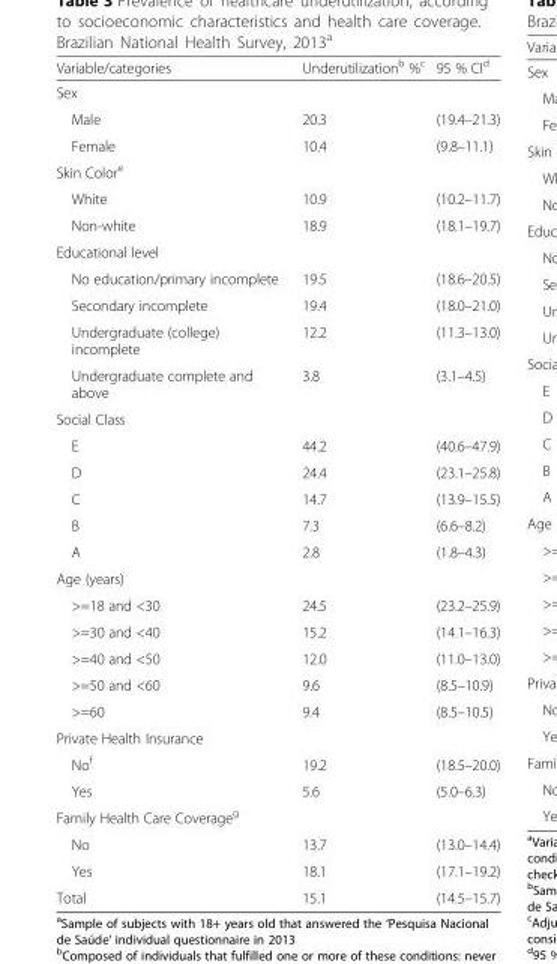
<table><thead><tr><td>Variable/categories</td><td>Underutilization<sup>b</sup> %<sup>c</sup></td><td>95 % CI<sup>d</sup></td></tr></thead><tbody><tr><td colspan="3">Sex</td></tr><tr><td>Male</td><td>20.3</td><td>(19.4–21.3)</td></tr><tr><td>Female</td><td>10.4</td><td>(9.8–11.1)</td></tr><tr><td colspan="3">Skin Color<sup>e</sup></td></tr><tr><td>White</td><td>10.9</td><td>(10.2–11.7)</td></tr><tr><td>Non-white</td><td>18.9</td><td>(18.1–19.7)</td></tr><tr><td colspan="3">Educational level</td></tr><tr><td>No education/primary incomplete</td><td>19.5</td><td>(18.6–20.5)</td></tr><tr><td>Secondary incomplete</td><td>19.4</td><td>(18.0–21.0)</td></tr><tr><td>Undergraduate (college) incomplete</td><td>12.2</td><td>(11.3–13.0)</td></tr><tr><td>Undergraduate complete and above</td><td>3.8</td><td>(3.1–4.5)</td></tr><tr><td colspan="3">Social Class</td></tr><tr><td>E</td><td>44.2</td><td>(40.6–47.9)</td></tr><tr><td>D</td><td>24.4</td><td>(23.1–25.8)</td></tr><tr><td>C</td><td>14.7</td><td>(13.9–15.5)</td></tr><tr><td>B</td><td>7.3</td><td>(6.6–8.2)</td></tr><tr><td>A</td><td>2.8</td><td>(1.8–4.3)</td></tr><tr><td colspan="3">Age (years)</td></tr><tr><td>&gt;=18 and &lt;30</td><td>24.5</td><td>(23.2–25.9)</td></tr><tr><td>&gt;=30 and &lt;40</td><td>15.2</td><td>(14.1–16.3)</td></tr><tr><td>&gt;=40 and &lt;50</td><td>12.0</td><td>(11.0–13.0)</td></tr><tr><td>&gt;=50 and &lt;60</td><td>9.6</td><td>(8.5–10.9)</td></tr><tr><td>&gt;=60</td><td>9.4</td><td>(8.5–10.5)</td></tr><tr><td colspan="3">Private Health Insurance</td></tr><tr><td>No<sup>f</sup></td><td>19.2</td><td>(18.5–20.0)</td></tr><tr><td>Yes</td><td>5.6</td><td>(5.0–6.3)</td></tr><tr><td colspan="3">Family Health Care Coverage<sup>g</sup></td></tr><tr><td>No</td><td>13.7</td><td>(13.0–14.4)</td></tr><tr><td>Yes</td><td>18.1</td><td>(17.1–19.2)</td></tr><tr><td>Total</td><td>15.1</td><td>(14.5–15.7)</td></tr></tbody></table>